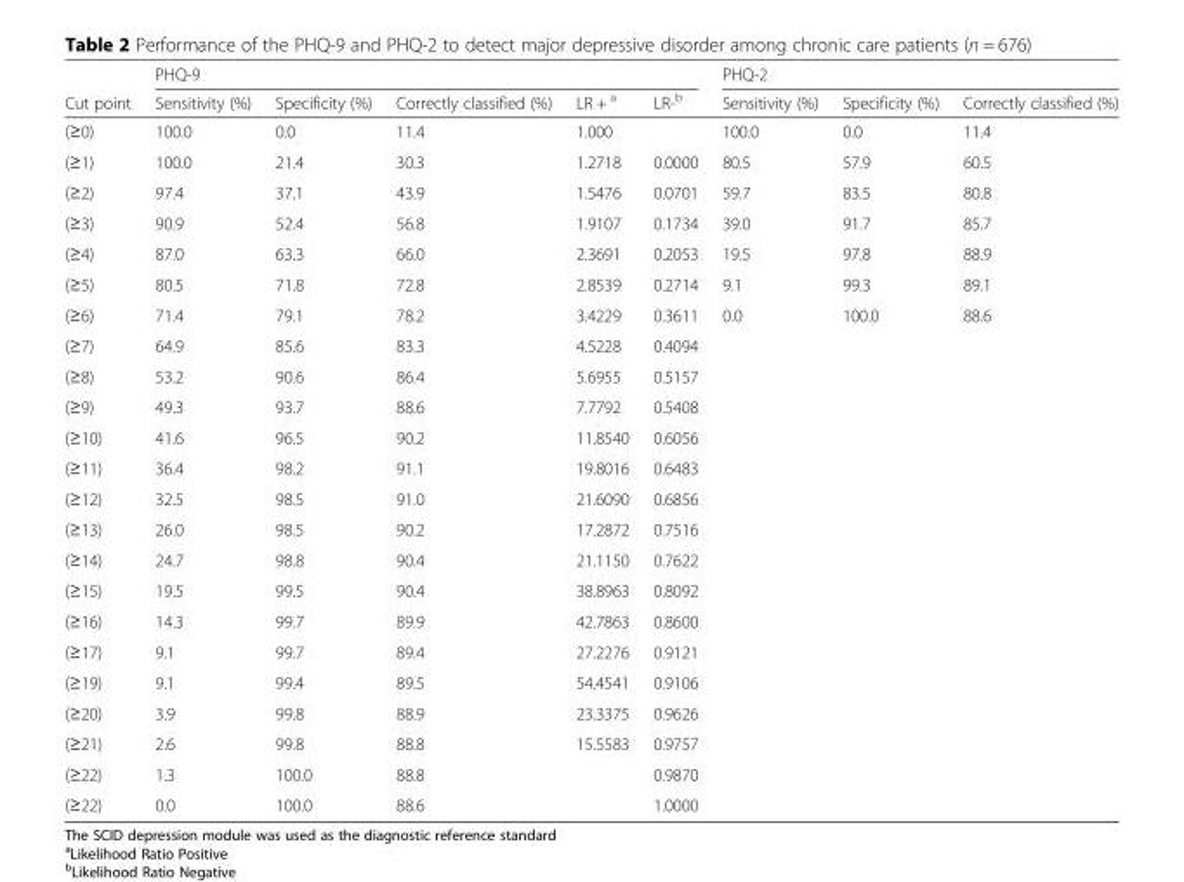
<table><thead><tr><td rowspan="2">Cut point</td><td colspan="5">PHQ-9</td><td colspan="3">PHQ-2</td></tr><tr><td>Sensitivity (%)</td><td>Specificity (%)</td><td>Correctly classified (%)</td><td>LR + <sup>a</sup></td><td>LR-<sup>b</sup></td><td>Sensitivity (%)</td><td>Specificity (%)</td><td>Correctly classified (%)</td></tr></thead><tbody><tr><td>(≥0)</td><td>100.0</td><td>0.0</td><td>11.4</td><td>1.000</td><td></td><td>100.0</td><td>0.0</td><td>11.4</td></tr><tr><td>(≥1)</td><td>100.0</td><td>21.4</td><td>30.3</td><td>1.2718</td><td>0.0000</td><td>80.5</td><td>57.9</td><td>60.5</td></tr><tr><td>(≥2)</td><td>97.4</td><td>37.1</td><td>43.9</td><td>1.5476</td><td>0.0701</td><td>59.7</td><td>83.5</td><td>80.8</td></tr><tr><td>(≥3)</td><td>90.9</td><td>52.4</td><td>56.8</td><td>1.9107</td><td>0.1734</td><td>39.0</td><td>91.7</td><td>85.7</td></tr><tr><td>(≥4)</td><td>87.0</td><td>63.3</td><td>66.0</td><td>2.3691</td><td>0.2053</td><td>19.5</td><td>97.8</td><td>88.9</td></tr><tr><td>(≥5)</td><td>80.5</td><td>71.8</td><td>72.8</td><td>2.8539</td><td>0.2714</td><td>9.1</td><td>99.3</td><td>89.1</td></tr><tr><td>(≥6)</td><td>71.4</td><td>79.1</td><td>78.2</td><td>3.4229</td><td>0.3611</td><td>0.0</td><td>100.0</td><td>88.6</td></tr><tr><td>(≥7)</td><td>64.9</td><td>85.6</td><td>83.3</td><td>4.5228</td><td>0.4094</td><td></td><td></td><td></td></tr><tr><td>(≥8)</td><td>53.2</td><td>90.6</td><td>86.4</td><td>5.6955</td><td>0.5157</td><td></td><td></td><td></td></tr><tr><td>(≥9)</td><td>49.3</td><td>93.7</td><td>88.6</td><td>7.7792</td><td>0.5408</td><td></td><td></td><td></td></tr><tr><td>(≥10)</td><td>41.6</td><td>96.5</td><td>90.2</td><td>11.8540</td><td>0.6056</td><td></td><td></td><td></td></tr><tr><td>(≥11)</td><td>36.4</td><td>98.2</td><td>91.1</td><td>19.8016</td><td>0.6483</td><td></td><td></td><td></td></tr><tr><td>(≥12)</td><td>32.5</td><td>98.5</td><td>91.0</td><td>21.6090</td><td>0.6856</td><td></td><td></td><td></td></tr><tr><td>(≥13)</td><td>26.0</td><td>98.5</td><td>90.2</td><td>17.2872</td><td>0.7516</td><td></td><td></td><td></td></tr><tr><td>(≥14)</td><td>24.7</td><td>98.8</td><td>90.4</td><td>21.1150</td><td>0.7622</td><td></td><td></td><td></td></tr><tr><td>(≥15)</td><td>19.5</td><td>99.5</td><td>90.4</td><td>38.8963</td><td>0.8092</td><td></td><td></td><td></td></tr><tr><td>(≥16)</td><td>14.3</td><td>99.7</td><td>89.9</td><td>42.7863</td><td>0.8600</td><td></td><td></td><td></td></tr><tr><td>(≥17)</td><td>9.1</td><td>99.7</td><td>89.4</td><td>27.2276</td><td>0.9121</td><td></td><td></td><td></td></tr><tr><td>(≥19)</td><td>9.1</td><td>99.4</td><td>89.5</td><td>54.4541</td><td>0.9106</td><td></td><td></td><td></td></tr><tr><td>(≥20)</td><td>3.9</td><td>99.8</td><td>88.9</td><td>23.3375</td><td>0.9626</td><td></td><td></td><td></td></tr><tr><td>(≥21)</td><td>2.6</td><td>99.8</td><td>88.8</td><td>15.5583</td><td>0.9757</td><td></td><td></td><td></td></tr><tr><td>(≥22)</td><td>1.3</td><td>100.0</td><td>88.8</td><td></td><td>0.9870</td><td></td><td></td><td></td></tr><tr><td>(≥22)</td><td>0.0</td><td>100.0</td><td>88.6</td><td></td><td>1.0000</td><td></td><td></td><td></td></tr></tbody></table>